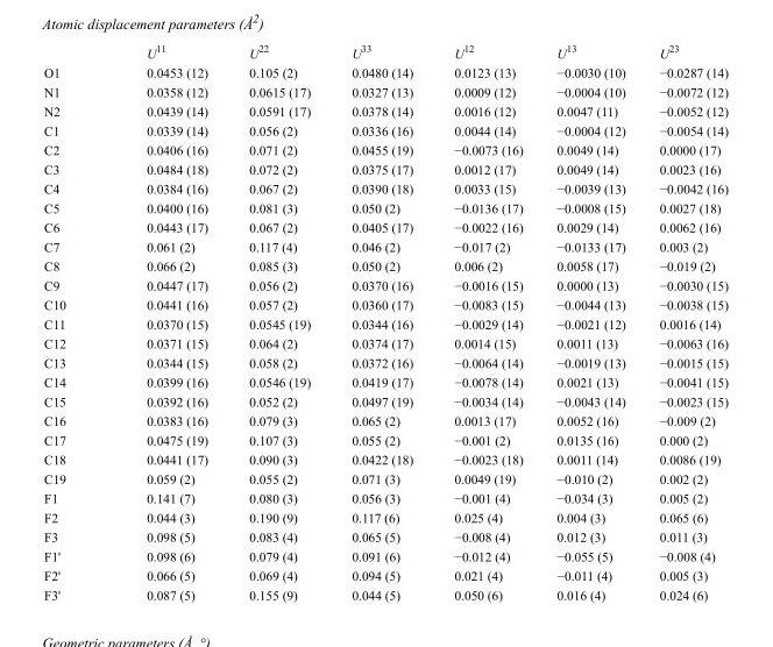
<table><thead><tr><td></td><td>U<sup>11</sup></td><td>U<sup>22</sup></td><td>U<sup>33</sup></td><td>U<sup>12</sup></td><td>U<sup>13</sup></td><td>U<sup>23</sup></td></tr></thead><tbody><tr><td>O1</td><td>0.0453 (12)</td><td>0.105 (2)</td><td>0.0480 (14)</td><td>0.0123 (13)</td><td>−0.0030 (10)</td><td>−0.0287 (14)</td></tr><tr><td>N1</td><td>0.0358 (12)</td><td>0.0615 (17)</td><td>0.0327 (13)</td><td>0.0009 (12)</td><td>−0.0004 (10)</td><td>−0.0072 (12)</td></tr><tr><td>N2</td><td>0.0439 (14)</td><td>0.0591 (17)</td><td>0.0378 (14)</td><td>0.0016 (12)</td><td>0.0047 (11)</td><td>−0.0052 (12)</td></tr><tr><td>C1</td><td>0.0339 (14)</td><td>0.056 (2)</td><td>0.0336 (16)</td><td>0.0044 (14)</td><td>−0.0004 (12)</td><td>−0.0054 (14)</td></tr><tr><td>C2</td><td>0.0406 (16)</td><td>0.071 (2)</td><td>0.0455 (19)</td><td>−0.0073 (16)</td><td>0.0049 (14)</td><td>0.0000 (17)</td></tr><tr><td>C3</td><td>0.0484 (18)</td><td>0.072 (2)</td><td>0.0375 (17)</td><td>0.0012 (17)</td><td>0.0049 (14)</td><td>0.0023 (16)</td></tr><tr><td>C4</td><td>0.0384 (16)</td><td>0.067 (2)</td><td>0.0390 (18)</td><td>0.0033 (15)</td><td>−0.0039 (13)</td><td>−0.0042 (16)</td></tr><tr><td>C5</td><td>0.0400 (16)</td><td>0.081 (3)</td><td>0.050 (2)</td><td>−0.0136 (17)</td><td>−0.0008 (15)</td><td>0.0027 (18)</td></tr><tr><td>C6</td><td>0.0443 (17)</td><td>0.067 (2)</td><td>0.0405 (17)</td><td>−0.0022 (16)</td><td>0.0029 (14)</td><td>0.0062 (16)</td></tr><tr><td>C7</td><td>0.061 (2)</td><td>0.117 (4)</td><td>0.046 (2)</td><td>−0.017 (2)</td><td>−0.0133 (17)</td><td>0.003 (2)</td></tr><tr><td>C8</td><td>0.066 (2)</td><td>0.085 (3)</td><td>0.050 (2)</td><td>0.006 (2)</td><td>0.0058 (17)</td><td>−0.019 (2)</td></tr><tr><td>C9</td><td>0.0447 (17)</td><td>0.056 (2)</td><td>0.0370 (16)</td><td>−0.0016 (15)</td><td>0.0000 (13)</td><td>−0.0030 (15)</td></tr><tr><td>C10</td><td>0.0441 (16)</td><td>0.057 (2)</td><td>0.0360 (17)</td><td>−0.0083 (15)</td><td>−0.0044 (13)</td><td>−0.0038 (15)</td></tr><tr><td>C11</td><td>0.0370 (15)</td><td>0.0545 (19)</td><td>0.0344 (16)</td><td>−0.0029 (14)</td><td>−0.0021 (12)</td><td>0.0016 (14)</td></tr><tr><td>C12</td><td>0.0371 (15)</td><td>0.064 (2)</td><td>0.0374 (17)</td><td>0.0014 (15)</td><td>0.0011 (13)</td><td>−0.0063 (16)</td></tr><tr><td>C13</td><td>0.0344 (15)</td><td>0.058 (2)</td><td>0.0372 (16)</td><td>−0.0064 (14)</td><td>−0.0019 (13)</td><td>−0.0015 (15)</td></tr><tr><td>C14</td><td>0.0399 (16)</td><td>0.0546 (19)</td><td>0.0419 (17)</td><td>−0.0078 (14)</td><td>0.0021 (13)</td><td>−0.0041 (15)</td></tr><tr><td>C15</td><td>0.0392 (16)</td><td>0.052 (2)</td><td>0.0497 (19)</td><td>−0.0034 (14)</td><td>−0.0043 (14)</td><td>−0.0023 (15)</td></tr><tr><td>C16</td><td>0.0383 (16)</td><td>0.079 (3)</td><td>0.065 (2)</td><td>0.0013 (17)</td><td>0.0052 (16)</td><td>−0.009 (2)</td></tr><tr><td>C17</td><td>0.0475 (19)</td><td>0.107 (3)</td><td>0.055 (2)</td><td>−0.001 (2)</td><td>0.0135 (16)</td><td>0.000 (2)</td></tr><tr><td>C18</td><td>0.0441 (17)</td><td>0.090 (3)</td><td>0.0422 (18)</td><td>−0.0023 (18)</td><td>0.0011 (14)</td><td>0.0086 (19)</td></tr><tr><td>C19</td><td>0.059 (2)</td><td>0.055 (2)</td><td>0.071 (3)</td><td>0.0049 (19)</td><td>−0.010 (2)</td><td>0.002 (2)</td></tr><tr><td>F1</td><td>0.141 (7)</td><td>0.080 (3)</td><td>0.056 (3)</td><td>−0.001 (4)</td><td>−0.034 (3)</td><td>0.005 (2)</td></tr><tr><td>F2</td><td>0.044 (3)</td><td>0.190 (9)</td><td>0.117 (6)</td><td>0.025 (4)</td><td>0.004 (3)</td><td>0.065 (6)</td></tr><tr><td>F3</td><td>0.098 (5)</td><td>0.083 (4)</td><td>0.065 (5)</td><td>−0.008 (4)</td><td>0.012 (3)</td><td>0.011 (3)</td></tr><tr><td>F1&#x27;</td><td>0.098 (6)</td><td>0.079 (4)</td><td>0.091 (6)</td><td>−0.012 (4)</td><td>−0.055 (5)</td><td>−0.008 (4)</td></tr><tr><td>F2&#x27;</td><td>0.066 (5)</td><td>0.069 (4)</td><td>0.094 (5)</td><td>0.021 (4)</td><td>−0.011 (4)</td><td>0.005 (3)</td></tr><tr><td>F3&#x27;</td><td>0.087 (5)</td><td>0.155 (9)</td><td>0.044 (5)</td><td>0.050 (6)</td><td>0.016 (4)</td><td>0.024 (6)</td></tr></tbody></table>